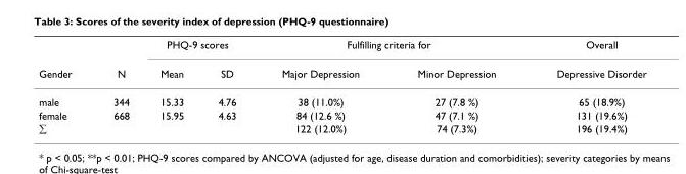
<table><thead><tr><td rowspan="2">Gender</td><td rowspan="2">N</td><td colspan="2">PHQ-9 scores</td><td colspan="2">Fulfilling criteria for</td><td rowspan="2">Overall Depressive Disorder</td></tr><tr><td>Mean</td><td>SD</td><td>Major Depression</td><td>Minor Depression</td></tr></thead><tbody><tr><td>male</td><td>344</td><td>15.33</td><td>4.76</td><td>38 (11.0%)</td><td>27 (7.8 %)</td><td>65 (18.9%)</td></tr><tr><td>female</td><td>668</td><td>15.95</td><td>4.63</td><td>84 (12.6 %)</td><td>47 (7.1 %)</td><td>131 (19.6%)</td></tr><tr><td>∑</td><td></td><td></td><td></td><td>122 (12.0%)</td><td>74 (7.3%)</td><td>196 (19.4%)</td></tr></tbody></table>